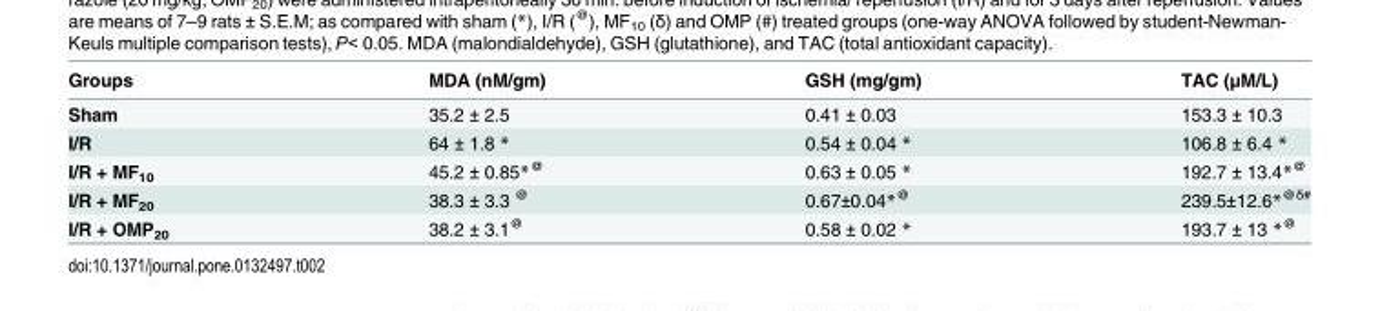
<table><thead><tr><td>Groups</td><td>MDA (nM/gm)</td><td>GSH (mg/gm)</td><td>TAC (μM/L)</td></tr></thead><tbody><tr><td>Sham</td><td>35.2 ± 2.5</td><td>0.41 ± 0.03</td><td>153.3 ± 10.3</td></tr><tr><td>I/R</td><td>64 ± 1.8 *</td><td>0.54 ± 0.04 *</td><td>106.8 ± 6.4 *</td></tr><tr><td>I/R + MF<sub>10</sub></td><td>45.2 ± 0.85*<sup>@</sup></td><td>0.63 ± 0.05 *</td><td>192.7 ± 13.4*<sup>@</sup></td></tr><tr><td>I/R + MF<sub>20</sub></td><td>38.3 ± 3.3 <sup>@</sup></td><td>0.67±0.04*<sup>@</sup></td><td>239.5±12.6*<sup>@δ#</sup></td></tr><tr><td>I/R + OMP<sub>20</sub></td><td>38.2 ± 3.1<sup>@</sup></td><td>0.58 ± 0.02 *</td><td>193.7 ± 13 *<sup>@</sup></td></tr></tbody></table>